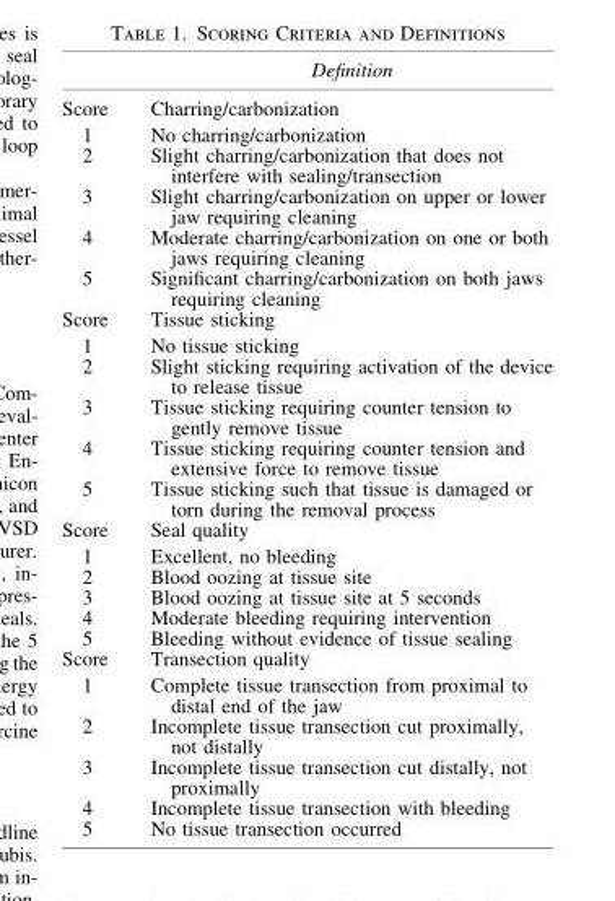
<table><thead><tr><td></td><td>Definition</td></tr></thead><tbody><tr><td>Score</td><td>Charring/carbonization</td></tr><tr><td>1</td><td>No charring/carbonization</td></tr><tr><td>2</td><td>Slight charring/carbonization that does not interfere with sealing/transection</td></tr><tr><td>3</td><td>Slight charring/carbonization on upper or lower jaw requiring cleaning</td></tr><tr><td>4</td><td>Moderate charring/carbonization on one or both jaws requiring cleaning</td></tr><tr><td>5</td><td>Significant charring/carbonization on both jaws requiring cleaning</td></tr><tr><td>Score</td><td>Tissue sticking</td></tr><tr><td>1</td><td>No tissue sticking</td></tr><tr><td>2</td><td>Slight sticking requiring activation of the device to release tissue</td></tr><tr><td>3</td><td>Tissue sticking requiring counter tension to gently remove tissue</td></tr><tr><td>4</td><td>Tissue sticking requiring counter tension and extensive force to remove tissue</td></tr><tr><td>5</td><td>Tissue sticking such that tissue is damaged or torn during the removal process</td></tr><tr><td>Score</td><td>Seal quality</td></tr><tr><td>1</td><td>Excellent, no bleeding</td></tr><tr><td>2</td><td>Blood oozing at tissue site</td></tr><tr><td>3</td><td>Blood oozing at tissue site at 5 seconds</td></tr><tr><td>4</td><td>Moderate bleeding requiring intervention</td></tr><tr><td>5</td><td>Bleeding without evidence of tissue sealing</td></tr><tr><td>Score</td><td>Transection quality</td></tr><tr><td>1</td><td>Complete tissue transection from proximal to distal end of the jaw</td></tr><tr><td>2</td><td>Incomplete tissue transection cut proximally, not distally</td></tr><tr><td>3</td><td>Incomplete tissue transection cut distally, not proximally</td></tr><tr><td>4</td><td>Incomplete tissue transection with bleeding</td></tr><tr><td>5</td><td>No tissue transection occurred</td></tr></tbody></table>